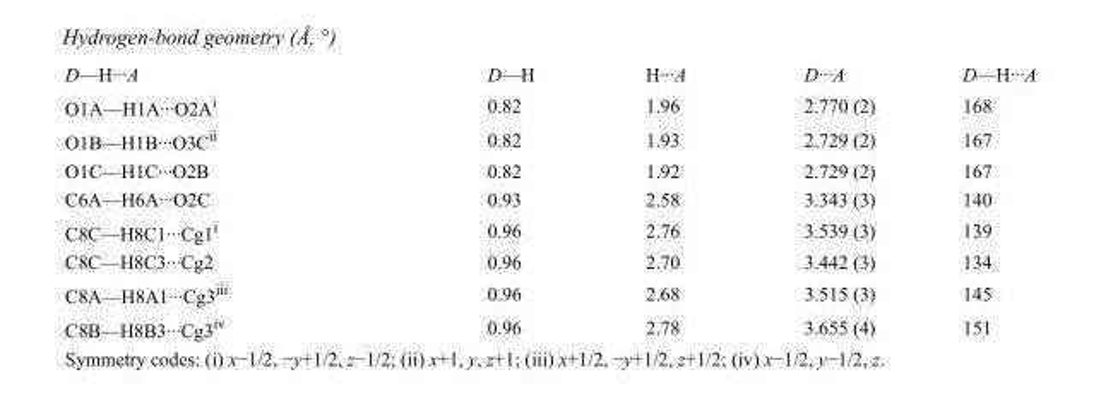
<table><tbody><tr><td>D—H···A</td><td>D—H</td><td>H···A</td><td>D···A</td><td>D—H···A</td></tr><tr><td>O1A—H1A···O2A<sup>i</sup></td><td>0.82</td><td>1.96</td><td>2.770 (2)</td><td>168</td></tr><tr><td>O1B—H1B···O3C<sup>ii</sup></td><td>0.82</td><td>1.93</td><td>2.729 (2)</td><td>167</td></tr><tr><td>O1C—H1C···O2B</td><td>0.82</td><td>1.92</td><td>2.729 (2)</td><td>167</td></tr><tr><td>C6A—H6A···O2C</td><td>0.93</td><td>2.58</td><td>3.343 (3)</td><td>140</td></tr><tr><td>C8C—H8C1···Cg1<sup>i</sup></td><td>0.96</td><td>2.76</td><td>3.539 (3)</td><td>139</td></tr><tr><td>C8C—H8C3···Cg2</td><td>0.96</td><td>2.70</td><td>3.442 (3)</td><td>134</td></tr><tr><td>C8A—H8A1···Cg3<sup>iii</sup></td><td>0.96</td><td>2.68</td><td>3.515 (3)</td><td>145</td></tr><tr><td>C8B—H8B3···Cg3<sup>iv</sup></td><td>0.96</td><td>2.78</td><td>3.655 (4)</td><td>151</td></tr></tbody></table>